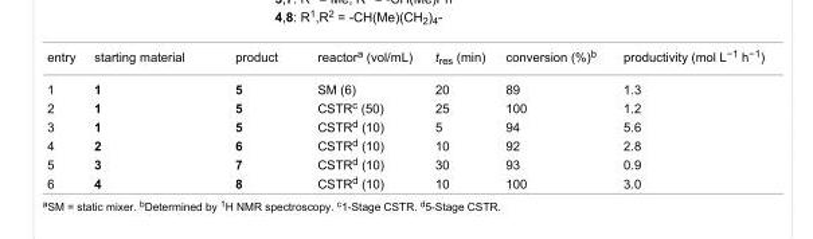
<table><tbody><tr><td>entry</td><td>starting material</td><td>product</td><td>reactor<sup>a</sup> (vol/mL)</td><td>t<sub>res</sub> (min)</td><td>conversion (%)<sup>b</sup></td><td>productivity (mol L<sup>−1</sup> h<sup>−1</sup>)</td></tr><tr><td>1</td><td>1</td><td>5</td><td>SM (6)</td><td>20</td><td>89</td><td>1.3</td></tr><tr><td>2</td><td>1</td><td>5</td><td>CSTR<sup>c</sup> (50)</td><td>25</td><td>100</td><td>1.2</td></tr><tr><td>3</td><td>1</td><td>5</td><td>CSTR<sup>d</sup> (10)</td><td>5</td><td>94</td><td>5.6</td></tr><tr><td>4</td><td>2</td><td>6</td><td>CSTR<sup>d</sup> (10)</td><td>10</td><td>92</td><td>2.8</td></tr><tr><td>5</td><td>3</td><td>7</td><td>CSTR<sup>d</sup> (10)</td><td>30</td><td>93</td><td>0.9</td></tr><tr><td>6</td><td>4</td><td>8</td><td>CSTR<sup>d</sup> (10)</td><td>10</td><td>100</td><td>3.0</td></tr></tbody></table>